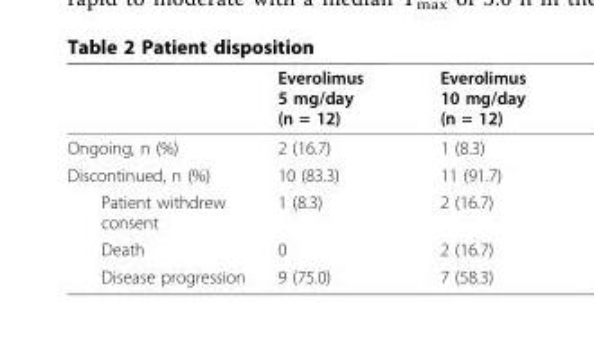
<table><thead><tr><td></td><td>Everolimus 5 mg/day (n = 12)</td><td>Everolimus 10 mg/day (n = 12)</td></tr></thead><tbody><tr><td>Ongoing, n (%)</td><td>2 (16.7)</td><td>1 (8.3)</td></tr><tr><td>Discontinued, n (%)</td><td>10 (83.3)</td><td>11 (91.7)</td></tr><tr><td>Patient withdrew consent</td><td>1 (8.3)</td><td>2 (16.7)</td></tr><tr><td>Death</td><td>0</td><td>2 (16.7)</td></tr><tr><td>Disease progression</td><td>9 (75.0)</td><td>7 (58.3)</td></tr></tbody></table>